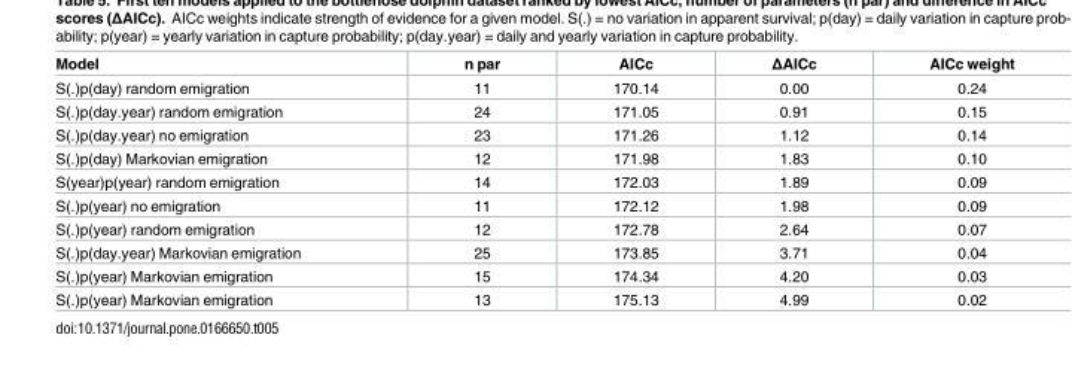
<table><thead><tr><td>Model</td><td>n par</td><td>AICc</td><td>ΔAICc</td><td>AICc weight</td></tr></thead><tbody><tr><td>S(.)p(day) random emigration</td><td>11</td><td>170.14</td><td>0.00</td><td>0.24</td></tr><tr><td>S(.)p(day.year) random emigration</td><td>24</td><td>171.05</td><td>0.91</td><td>0.15</td></tr><tr><td>S(.)p(day.year) no emigration</td><td>23</td><td>171.26</td><td>1.12</td><td>0.14</td></tr><tr><td>S(.)p(day) Markovian emigration</td><td>12</td><td>171.98</td><td>1.83</td><td>0.10</td></tr><tr><td>S(year)p(year) random emigration</td><td>14</td><td>172.03</td><td>1.89</td><td>0.09</td></tr><tr><td>S(.)p(year) no emigration</td><td>11</td><td>172.12</td><td>1.98</td><td>0.09</td></tr><tr><td>S(.)p(year) random emigration</td><td>12</td><td>172.78</td><td>2.64</td><td>0.07</td></tr><tr><td>S(.)p(day.year) Markovian emigration</td><td>25</td><td>173.85</td><td>3.71</td><td>0.04</td></tr><tr><td>S(.)p(year) Markovian emigration</td><td>15</td><td>174.34</td><td>4.20</td><td>0.03</td></tr><tr><td>S(.)p(year) Markovian emigration</td><td>13</td><td>175.13</td><td>4.99</td><td>0.02</td></tr></tbody></table>